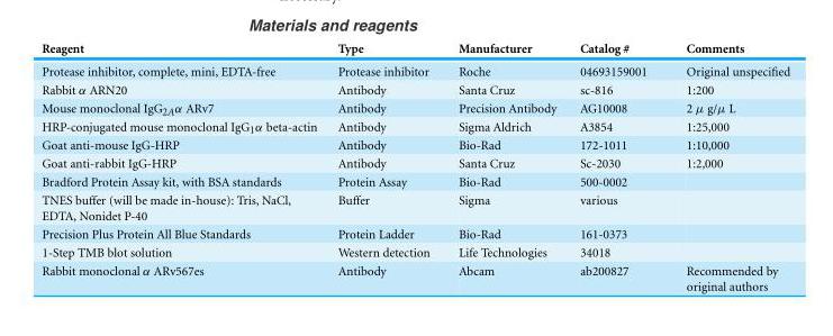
<table><thead><tr><td>Reagent</td><td>Type</td><td>Manufacturer</td><td>Catalog #</td><td>Comments</td></tr></thead><tbody><tr><td>Protease inhibitor, complete, mini, EDTA-free</td><td>Protease inhibitor</td><td>Roche</td><td>04693159001</td><td>Original unspecified</td></tr><tr><td>Rabbit α ARN20</td><td>Antibody</td><td>Santa Cruz</td><td>sc-816</td><td>1:200</td></tr><tr><td>Mouse monoclonal IgG<sub>2A</sub>α ARv7</td><td>Antibody</td><td>Precision Antibody</td><td>AG10008</td><td>2 µ g/µ L</td></tr><tr><td>HRP-conjugated mouse monoclonal IgG<sub>1</sub>α beta-actin</td><td>Antibody</td><td>Sigma Aldrich</td><td>A3854</td><td>1:25,000</td></tr><tr><td>Goat anti-mouse IgG-HRP</td><td>Antibody</td><td>Bio-Rad</td><td>172-1011</td><td>1:10,000</td></tr><tr><td>Goat anti-rabbit IgG-HRP</td><td>Antibody</td><td>Santa Cruz</td><td>Sc-2030</td><td>1:2,000</td></tr><tr><td>Bradford Protein Assay kit, with BSA standards</td><td>Protein Assay</td><td>Bio-Rad</td><td>500-0002</td><td></td></tr><tr><td>TNES buffer (will be made in-house): Tris, NaCl, EDTA, Nonidet P-40</td><td>Buffer</td><td>Sigma</td><td>various</td><td></td></tr><tr><td>Precision Plus Protein All Blue Standards</td><td>Protein Ladder</td><td>Bio-Rad</td><td>161-0373</td><td></td></tr><tr><td>1-Step TMB blot solution</td><td>Western detection</td><td>Life Technologies</td><td>34018</td><td></td></tr><tr><td>Rabbit monoclonal α ARv567es</td><td>Antibody</td><td>Abcam</td><td>ab200827</td><td>Recommended by original authors</td></tr></tbody></table>